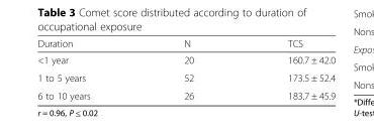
<table><thead><tr><td>Duration</td><td>N</td><td>TCS</td></tr></thead><tbody><tr><td>&lt;1 year</td><td>20</td><td>160.7 ± 42.0</td></tr><tr><td>1 to 5 years</td><td>52</td><td>173.5 ± 52.4</td></tr><tr><td>6 to 10 years</td><td>26</td><td>183.7 ± 45.9</td></tr></tbody></table>